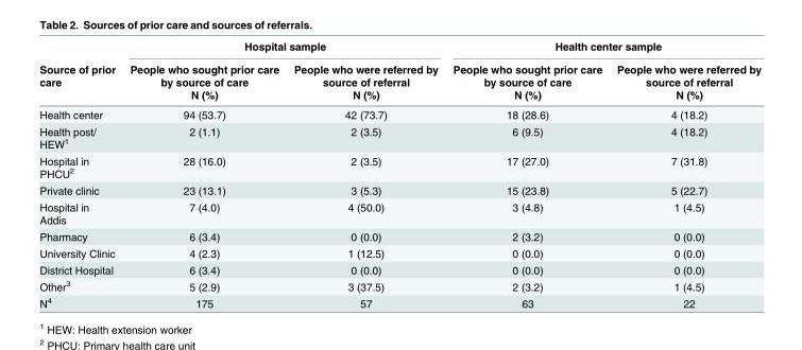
<table><thead><tr><td rowspan="3">Source of prior care</td><td colspan="2">Hospital sample</td><td colspan="2">Health center sample</td></tr><tr><td rowspan="2">People who sought prior care by source of care N (%)</td><td rowspan="2">People who were referred by source of referral N (%)</td><td rowspan="2">People who sought prior care by source of care N (%)</td><td rowspan="2">People who were referred by source of referral N (%)</td></tr><tr></tr></thead><tbody><tr><td>Health center</td><td>94 (53.7)</td><td>42 (73.7)</td><td>18 (28.6)</td><td>4 (18.2)</td></tr><tr><td>Health post/ HEW<sup>1</sup></td><td>2 (1.1)</td><td>2 (3.5)</td><td>6 (9.5)</td><td>4 (18.2)</td></tr><tr><td>Hospital in PHCU<sup>2</sup></td><td>28 (16.0)</td><td>2 (3.5)</td><td>17 (27.0)</td><td>7 (31.8)</td></tr><tr><td>Private clinic</td><td>23 (13.1)</td><td>3 (5.3)</td><td>15 (23.8)</td><td>5 (22.7)</td></tr><tr><td>Hospital in Addis</td><td>7 (4.0)</td><td>4 (50.0)</td><td>3 (4.8)</td><td>1 (4.5)</td></tr><tr><td>Pharmacy</td><td>6 (3.4)</td><td>0 (0.0)</td><td>2 (3.2)</td><td>0 (0.0)</td></tr><tr><td>University Clinic</td><td>4 (2.3)</td><td>1 (12.5)</td><td>0 (0.0)</td><td>0 (0.0)</td></tr><tr><td>District Hospital</td><td>6 (3.4)</td><td>0 (0.0)</td><td>0 (0.0)</td><td>0 (0.0)</td></tr><tr><td>Other<sup>3</sup></td><td>5 (2.9)</td><td>3 (37.5)</td><td>2 (3.2)</td><td>1 (4.5)</td></tr><tr><td>N<sup>4</sup></td><td>175</td><td>57</td><td>63</td><td>22</td></tr></tbody></table>